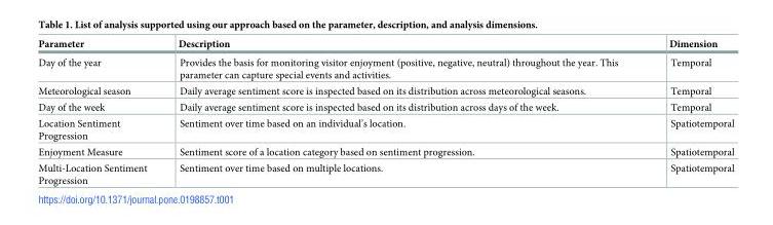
<table><thead><tr><td>Parameter</td><td>Description</td><td>Dimension</td></tr></thead><tbody><tr><td>Day of the year</td><td>Provides the basis for monitoring visitor enjoyment (positive, negative, neutral) throughout the year. This parameter can capture special events and activities.</td><td>Temporal</td></tr><tr><td>Meteorological season</td><td>Daily average sentiment score is inspected based on its distribution across meteorological seasons.</td><td>Temporal</td></tr><tr><td>Day of the week</td><td>Daily average sentiment score is inspected based on its distribution across days of the week.</td><td>Temporal</td></tr><tr><td>Location Sentiment Progression</td><td>Sentiment over time based on an individual’s location.</td><td>Spatiotemporal</td></tr><tr><td>Enjoyment Measure</td><td>Sentiment score of a location category based on sentiment progression.</td><td>Spatiotemporal</td></tr><tr><td>Multi-Location Sentiment Progression</td><td>Sentiment over time based on multiple locations.</td><td>Spatiotemporal</td></tr></tbody></table>